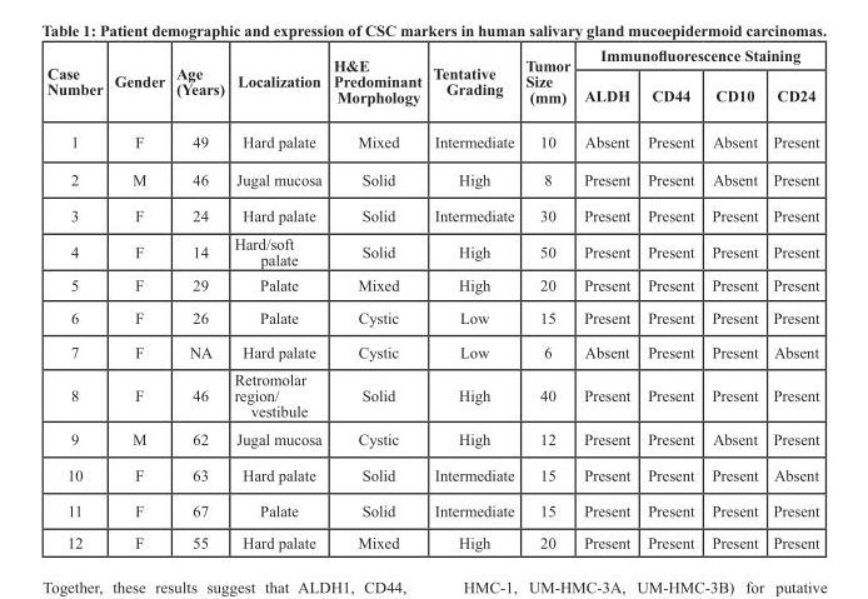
<table><thead><tr><td rowspan="2">Case Number</td><td rowspan="2">Gender</td><td rowspan="2">Age (Years)</td><td rowspan="2">Localization</td><td rowspan="2">H&amp;E Predominant Morphology</td><td rowspan="2">Tentative Grading</td><td rowspan="2">Tumor Size (mm)</td><td colspan="4">Immunofluorescence Staining</td></tr><tr><td>ALDH</td><td>CD44</td><td>CD10</td><td>CD24</td></tr></thead><tbody><tr><td>1</td><td>F</td><td>49</td><td>Hard palate</td><td>Mixed</td><td>Intermediate</td><td>10</td><td>Absent</td><td>Present</td><td>Absent</td><td>Present</td></tr><tr><td>2</td><td>M</td><td>46</td><td>Jugal mucosa</td><td>Solid</td><td>High</td><td>8</td><td>Present</td><td>Present</td><td>Absent</td><td>Present</td></tr><tr><td>3</td><td>F</td><td>24</td><td>Hard palate</td><td>Solid</td><td>Intermediate</td><td>30</td><td>Present</td><td>Present</td><td>Present</td><td>Present</td></tr><tr><td>4</td><td>F</td><td>14</td><td>Hard/soft palate</td><td>Solid</td><td>High</td><td>50</td><td>Present</td><td>Present</td><td>Present</td><td>Present</td></tr><tr><td>5</td><td>F</td><td>29</td><td>Palate</td><td>Mixed</td><td>High</td><td>20</td><td>Present</td><td>Present</td><td>Present</td><td>Present</td></tr><tr><td>6</td><td>F</td><td>26</td><td>Palate</td><td>Cystic</td><td>Low</td><td>15</td><td>Present</td><td>Present</td><td>Present</td><td>Present</td></tr><tr><td>7</td><td>F</td><td>NA</td><td>Hard palate</td><td>Cystic</td><td>Low</td><td>6</td><td>Absent</td><td>Present</td><td>Present</td><td>Absent</td></tr><tr><td>8</td><td>F</td><td>46</td><td>Retromolar region/ vestibule</td><td>Solid</td><td>High</td><td>40</td><td>Present</td><td>Present</td><td>Present</td><td>Present</td></tr><tr><td>9</td><td>M</td><td>62</td><td>Jugal mucosa</td><td>Cystic</td><td>High</td><td>12</td><td>Present</td><td>Present</td><td>Absent</td><td>Present</td></tr><tr><td>10</td><td>F</td><td>63</td><td>Hard palate</td><td>Solid</td><td>Intermediate</td><td>15</td><td>Present</td><td>Present</td><td>Present</td><td>Absent</td></tr><tr><td>11</td><td>F</td><td>67</td><td>Palate</td><td>Solid</td><td>Intermediate</td><td>15</td><td>Present</td><td>Present</td><td>Present</td><td>Present</td></tr><tr><td>12</td><td>F</td><td>55</td><td>Hard palate</td><td>Mixed</td><td>High</td><td>20</td><td>Present</td><td>Present</td><td>Present</td><td>Present</td></tr></tbody></table>